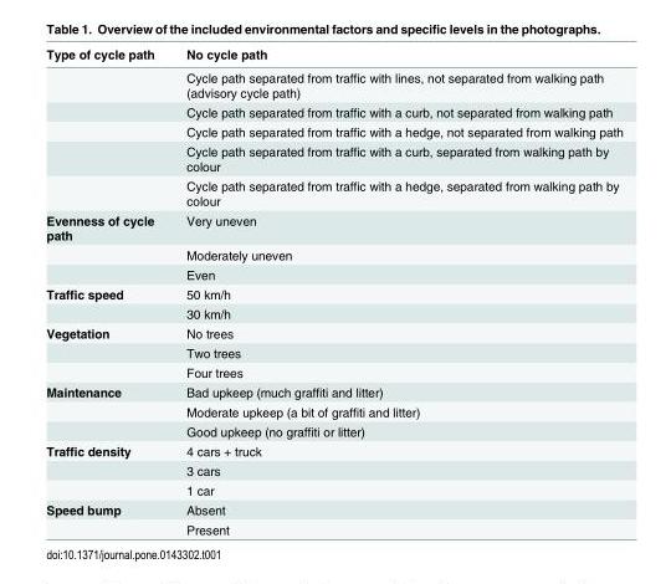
<table><thead><tr><td>Type of cycle path</td><td>No cycle path</td></tr></thead><tbody><tr><td></td><td>Cycle path separated from traffic with lines, not separated from walking path (advisory cycle path)</td></tr><tr><td></td><td>Cycle path separated from traffic with a curb, not separated from walking path</td></tr><tr><td></td><td>Cycle path separated from traffic with a hedge, not separated from walking path</td></tr><tr><td></td><td>Cycle path separated from traffic with a curb, separated from walking path by colour</td></tr><tr><td></td><td>Cycle path separated from traffic with a hedge, separated from walking path by colour</td></tr><tr><td rowspan="3">Evenness of cycle path</td><td>Very uneven</td></tr><tr><td>Moderately uneven</td></tr><tr><td>Even</td></tr><tr><td rowspan="2">Traffic speed</td><td>50 km/h</td></tr><tr><td>30 km/h</td></tr><tr><td rowspan="3">Vegetation</td><td>No trees</td></tr><tr><td>Two trees</td></tr><tr><td>Four trees</td></tr><tr><td rowspan="3">Maintenance</td><td>Bad upkeep (much graffiti and litter)</td></tr><tr><td>Moderate upkeep (a bit of graffiti and litter)</td></tr><tr><td>Good upkeep (no graffiti or litter)</td></tr><tr><td rowspan="3">Traffic density</td><td>4 cars + truck</td></tr><tr><td>3 cars</td></tr><tr><td>1 car</td></tr><tr><td rowspan="2">Speed bump</td><td>Absent</td></tr><tr><td>Present</td></tr></tbody></table>